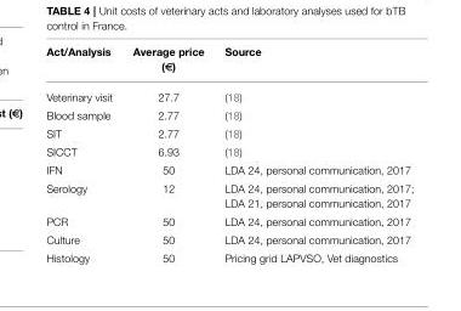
<table><thead><tr><td>Act/Analysis</td><td>Average price (€)</td><td>Source</td></tr></thead><tbody><tr><td>Veterinary visit</td><td>27.7</td><td>(18)</td></tr><tr><td>Blood sample</td><td>2.77</td><td>(18)</td></tr><tr><td>SIT</td><td>2.77</td><td>(18)</td></tr><tr><td>SICCT</td><td>6.93</td><td>(18)</td></tr><tr><td>IFN</td><td>50</td><td>LDA 24, personal communication, 2017</td></tr><tr><td>Serology</td><td>12</td><td>LDA 24, personal communication, 2017; LDA 21, personal communication, 2017</td></tr><tr><td>PCR</td><td>50</td><td>LDA 24, personal communication, 2017</td></tr><tr><td>Culture</td><td>50</td><td>LDA 24, personal communication, 2017</td></tr><tr><td>Histology</td><td>50</td><td>Pricing grid LAPVSO, Vet diagnostics</td></tr></tbody></table>